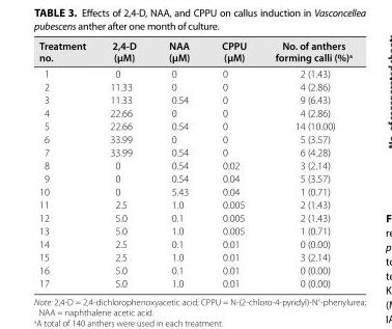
<table><thead><tr><td>Treatment no.</td><td>2,4- D (μM)</td><td>NAA (μM)</td><td>CPPU (μM)</td><td>No. of anthers forming calli (%)<sup>a</sup></td></tr></thead><tbody><tr><td>1</td><td>0</td><td>0</td><td>0</td><td>2 (1.43)</td></tr><tr><td>2</td><td>11.33</td><td>0</td><td>0</td><td>4 (2.86)</td></tr><tr><td>3</td><td>11.33</td><td>0.54</td><td>0</td><td>9 (6.43)</td></tr><tr><td>4</td><td>22.66</td><td>0</td><td>0</td><td>4 (2.86)</td></tr><tr><td>5</td><td>22.66</td><td>0.54</td><td>0</td><td>14 (10.00)</td></tr><tr><td>6</td><td>33.99</td><td>0</td><td>0</td><td>5 (3.57)</td></tr><tr><td>7</td><td>33.99</td><td>0.54</td><td>0</td><td>6 (4.28)</td></tr><tr><td>8</td><td>0</td><td>0.54</td><td>0.02</td><td>3 (2.14)</td></tr><tr><td>9</td><td>0</td><td>0.54</td><td>0.04</td><td>5 (3.57)</td></tr><tr><td>10</td><td>0</td><td>5.43</td><td>0.04</td><td>1 (0.71)</td></tr><tr><td>11</td><td>2.5</td><td>1.0</td><td>0.005</td><td>2 (1.43)</td></tr><tr><td>12</td><td>5.0</td><td>0.1</td><td>0.005</td><td>2 (1.43)</td></tr><tr><td>13</td><td>5.0</td><td>1.0</td><td>0.005</td><td>1 (0.71)</td></tr><tr><td>14</td><td>2.5</td><td>0.1</td><td>0.01</td><td>0 (0.00)</td></tr><tr><td>15</td><td>2.5</td><td>1.0</td><td>0.01</td><td>3 (2.14)</td></tr><tr><td>16</td><td>5.0</td><td>0.1</td><td>0.01</td><td>0 (0.00)</td></tr><tr><td>17</td><td>5.0</td><td>1.0</td><td>0.01</td><td>0 (0.00)</td></tr></tbody></table>